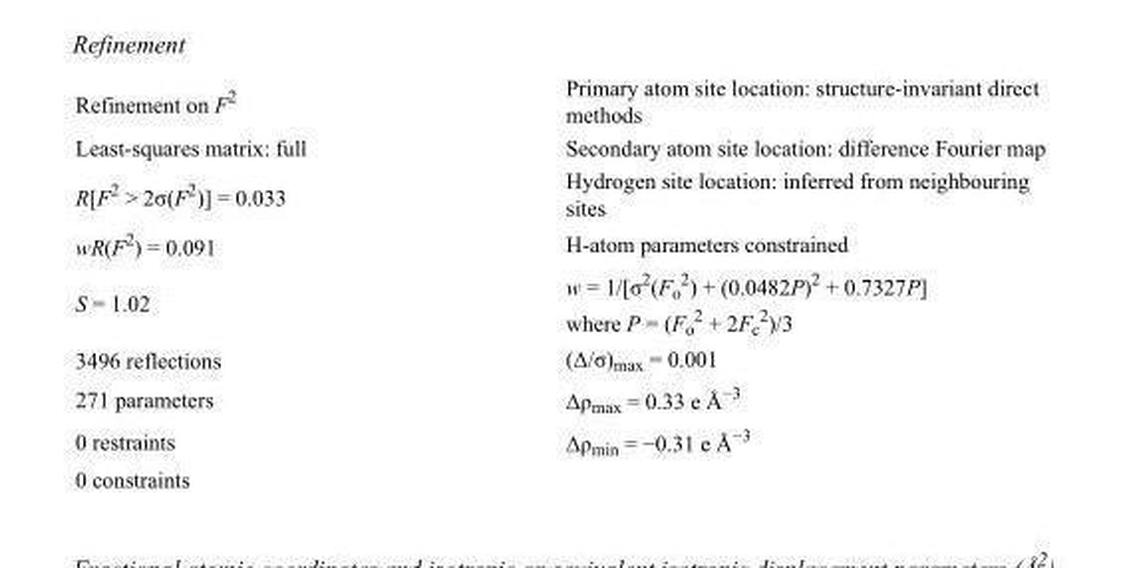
<table><tbody><tr><td>Refinement on F<sup>2</sup></td><td>Primary atom site location: structure-invariant direct methods</td></tr><tr><td>Least-squares matrix: full</td><td>Secondary atom site location: difference Fourier map</td></tr><tr><td>R[F<sup>2</sup> &gt; 2σ(F<sup>2</sup>)] = 0.033</td><td>Hydrogen site location: inferred from neighbouring sites</td></tr><tr><td>wR(F<sup>2</sup>) = 0.091</td><td>H-atom parameters constrained</td></tr><tr><td>S = 1.02</td><td>w = 1/[σ<sup>2</sup>(F<sub>o</sub> <sup>2</sup>) + (0.0482P)<sup>2</sup> + 0.7327P] where P = (F<sub>o</sub> <sup>2</sup> + 2F<sub>c</sub> <sup>2</sup>)/3</td></tr><tr><td>3496 reflections</td><td>(Δ/σ)<sub>max</sub> = 0.001</td></tr><tr><td>271 parameters</td><td>Δρ<sub>max</sub> = 0.33 e Å<sup>−3</sup></td></tr><tr><td>0 restraints</td><td>Δρ<sub>min</sub> = −0.31 e Å<sup>−3</sup></td></tr><tr><td>0 constraints</td><td></td></tr></tbody></table>